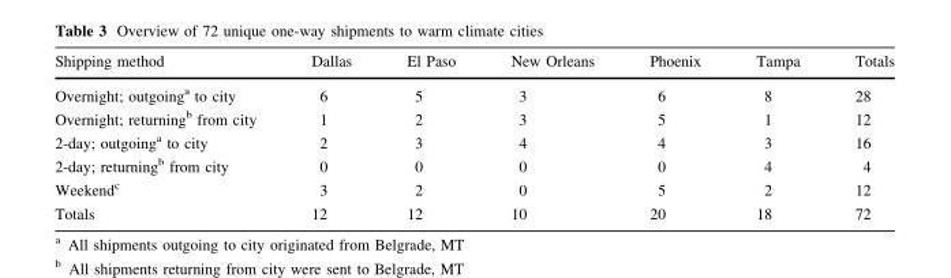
<table><thead><tr><td>Shipping method</td><td>Dallas</td><td>El Paso</td><td>New Orleans</td><td>Phoenix</td><td>Tampa</td><td>Totals</td></tr></thead><tbody><tr><td>Overnight; outgoing<sup>a</sup> to city</td><td>6</td><td>5</td><td>3</td><td>6</td><td>8</td><td>28</td></tr><tr><td>Overnight; returning<sup>b</sup> from city</td><td>1</td><td>2</td><td>3</td><td>5</td><td>1</td><td>12</td></tr><tr><td>2-day; outgoing<sup>a</sup> to city</td><td>2</td><td>3</td><td>4</td><td>4</td><td>3</td><td>16</td></tr><tr><td>2-day; returning<sup>b</sup> from city</td><td>0</td><td>0</td><td>0</td><td>0</td><td>4</td><td>4</td></tr><tr><td>Weekend<sup>c</sup></td><td>3</td><td>2</td><td>0</td><td>5</td><td>2</td><td>12</td></tr><tr><td>Totals</td><td>12</td><td>12</td><td>10</td><td>20</td><td>18</td><td>72</td></tr></tbody></table>